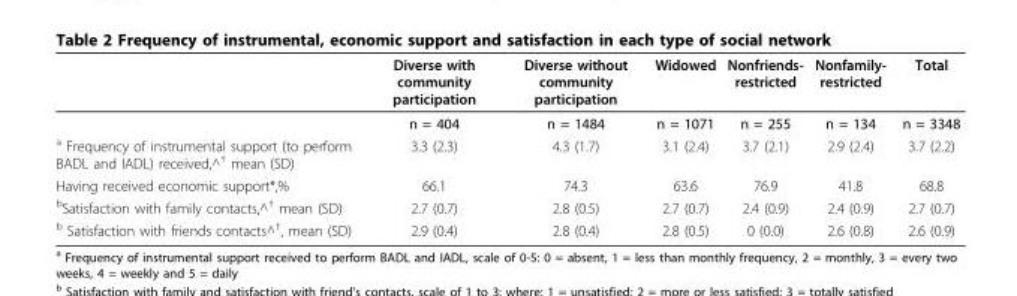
<table><thead><tr><td></td><td>Diverse with community participation</td><td>Diverse without community participation</td><td>Widowed</td><td>Nonfriends- restricted</td><td>Nonfamily- restricted</td><td>Total</td></tr></thead><tbody><tr><td></td><td>n = 404</td><td>n = 1484</td><td>n = 1071</td><td>n = 255</td><td>n = 134</td><td>n = 3348</td></tr><tr><td>a Frequency of instrumental support (to perform BADL and IADL) received,^† mean (SD)</td><td>3.3 (2.3)</td><td>4.3 (1.7)</td><td>3.1 (2.4)</td><td>3.7 (2.1)</td><td>2.9 (2.4)</td><td>3.7 (2.2)</td></tr><tr><td>Having received economic support*,%</td><td>66.1</td><td>74.3</td><td>63.6</td><td>76.9</td><td>41.8</td><td>68.8</td></tr><tr><td>bSatisfaction with family contacts,^† mean (SD)</td><td>2.7 (0.7)</td><td>2.8 (0.5)</td><td>2.7 (0.7)</td><td>2.4 (0.9)</td><td>2.4 (0.9)</td><td>2.7 (0.7)</td></tr><tr><td>b Satisfaction with friends contacts^†, mean (SD)</td><td>2.9 (0.4)</td><td>2.8 (0.4)</td><td>2.8 (0.5)</td><td>0 (0.0)</td><td>2.6 (0.8)</td><td>2.6 (0.9)</td></tr></tbody></table>